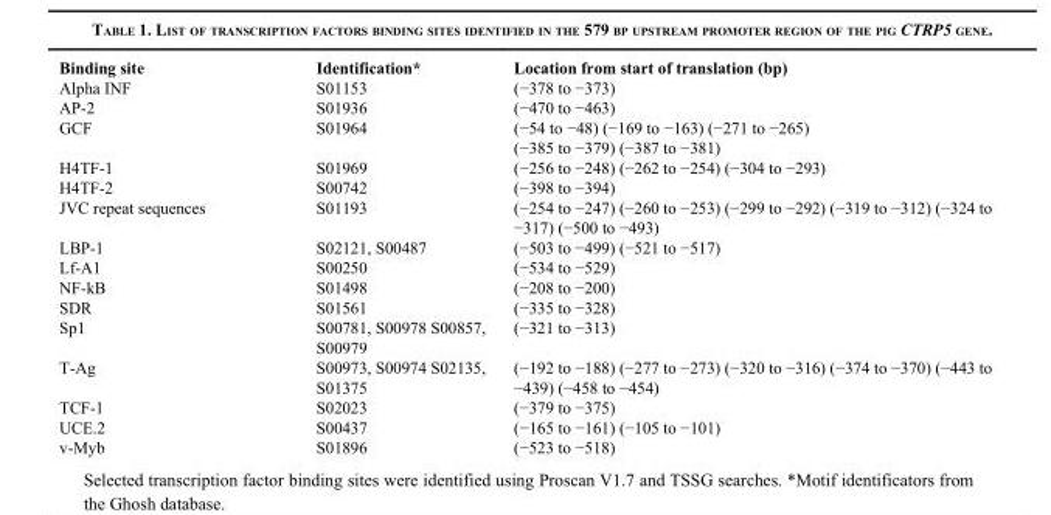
<table><thead><tr><td>Binding site</td><td>Identification*</td><td>Location from start of translation (bp)</td></tr></thead><tbody><tr><td>Alpha INF</td><td>S01153</td><td>(−378 to −373)</td></tr><tr><td>AP-2</td><td>S01936</td><td>(−470 to −463)</td></tr><tr><td>GCF</td><td>S01964</td><td>(−54 to −48) (−169 to −163) (−271 to −265) (−385 to −379) (−387 to −381)</td></tr><tr><td>H4TF-1</td><td>S01969</td><td>(−256 to −248) (−262 to −254) (−304 to −293)</td></tr><tr><td>H4TF-2</td><td>S00742</td><td>(−398 to −394)</td></tr><tr><td>JVC repeat sequences</td><td>S01193</td><td>(−254 to −247) (−260 to −253) (−299 to −292) (−319 to −312) (−324 to −317) (−500 to −493)</td></tr><tr><td>LBP-1</td><td>S02121, S00487</td><td>(−503 to −499) (−521 to −517)</td></tr><tr><td>Lf-A1</td><td>S00250</td><td>(−534 to −529)</td></tr><tr><td>NF-kB</td><td>S01498</td><td>(−208 to −200)</td></tr><tr><td>SDR</td><td>S01561</td><td>(−335 to −328)</td></tr><tr><td>Sp1</td><td>S00781, S00978 S00857, S00979</td><td>(−321 to −313)</td></tr><tr><td>T-Ag</td><td>S00973, S00974 S02135, S01375</td><td>(−192 to −188) (−277 to −273) (−320 to −316) (−374 to −370) (−443 to −439) (−458 to −454)</td></tr><tr><td>TCF-1</td><td>S02023</td><td>(−379 to −375)</td></tr><tr><td>UCE.2</td><td>S00437</td><td>(−165 to −161) (−105 to −101)</td></tr><tr><td>v-Myb</td><td>S01896</td><td>(−523 to −518)</td></tr></tbody></table>